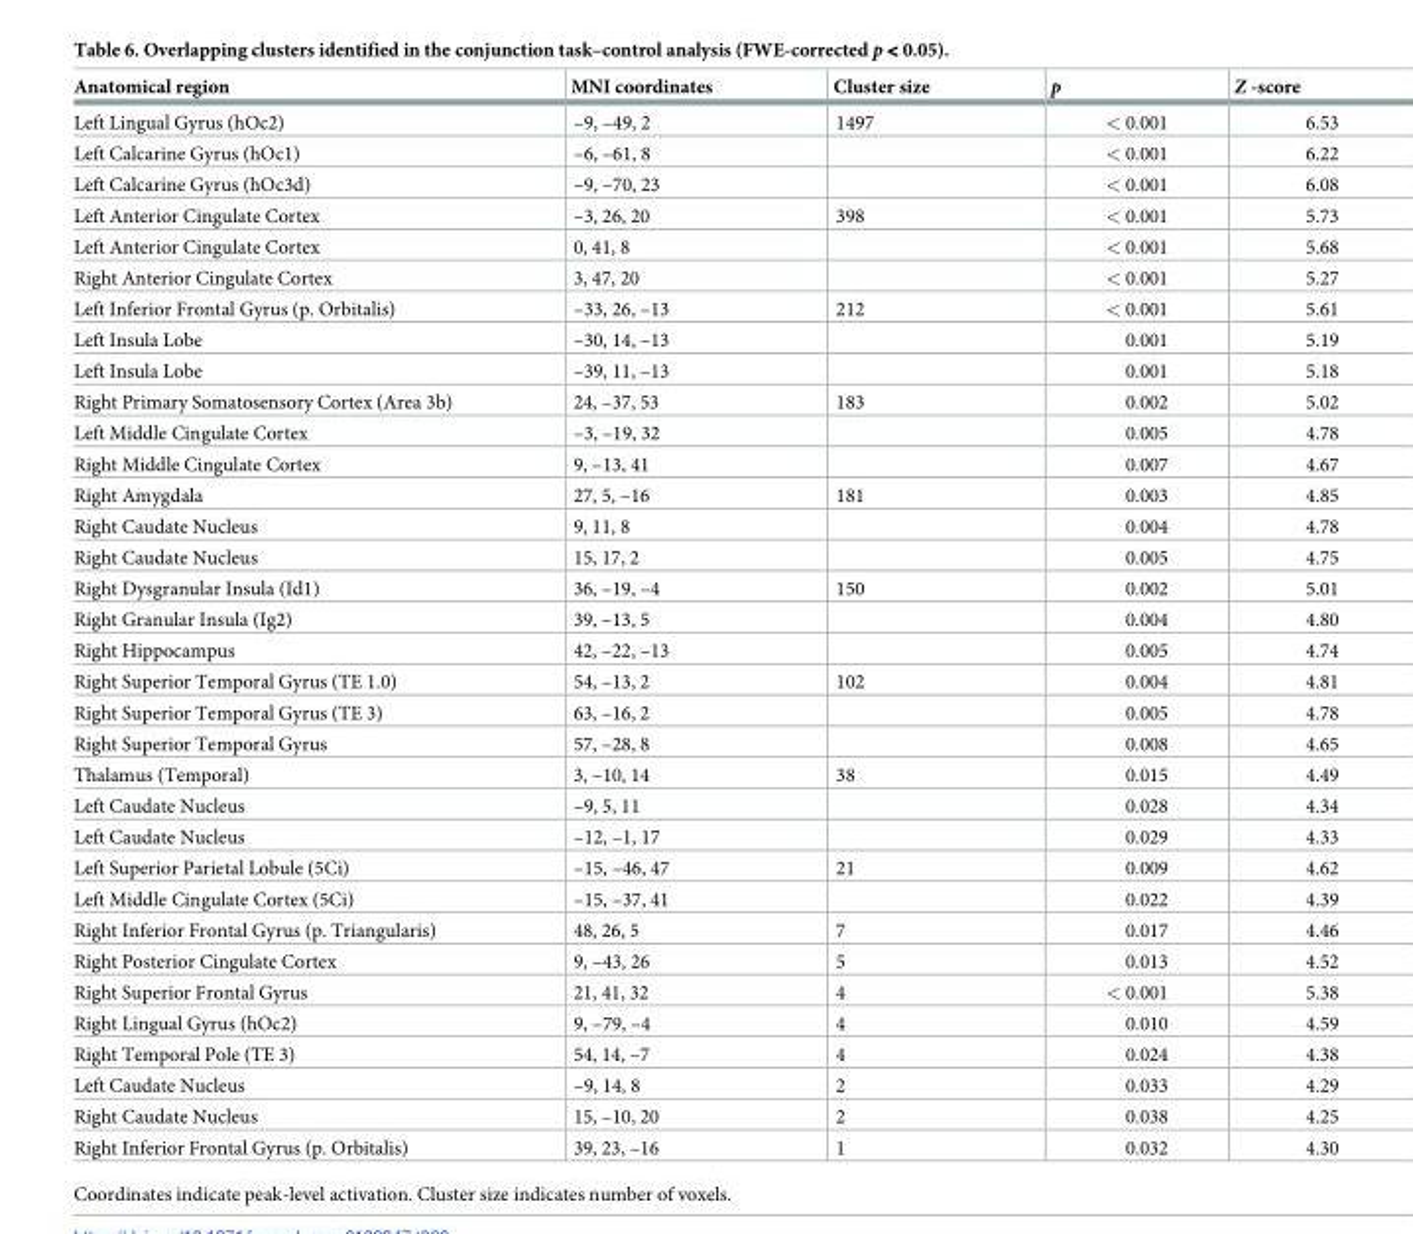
<table><thead><tr><td>Anatomical region</td><td>MNI coordinates</td><td>Cluster size</td><td>p</td><td>Z -score</td></tr></thead><tbody><tr><td>Left Lingual Gyrus (hOc2)</td><td>–9, –49, 2</td><td>1497</td><td>&lt; 0.001</td><td>6.53</td></tr><tr><td>Left Calcarine Gyrus (hOc1)</td><td>–6, –61, 8</td><td></td><td>&lt; 0.001</td><td>6.22</td></tr><tr><td>Left Calcarine Gyrus (hOc3d)</td><td>–9, –70, 23</td><td></td><td>&lt; 0.001</td><td>6.08</td></tr><tr><td>Left Anterior Cingulate Cortex</td><td>–3, 26, 20</td><td>398</td><td>&lt; 0.001</td><td>5.73</td></tr><tr><td>Left Anterior Cingulate Cortex</td><td>0, 41, 8</td><td></td><td>&lt; 0.001</td><td>5.68</td></tr><tr><td>Right Anterior Cingulate Cortex</td><td>3, 47, 20</td><td></td><td>&lt; 0.001</td><td>5.27</td></tr><tr><td>Left Inferior Frontal Gyrus (p. Orbitalis)</td><td>–33, 26, –13</td><td>212</td><td>&lt; 0.001</td><td>5.61</td></tr><tr><td>Left Insula Lobe</td><td>–30, 14, –13</td><td></td><td>0.001</td><td>5.19</td></tr><tr><td>Left Insula Lobe</td><td>–39, 11, –13</td><td></td><td>0.001</td><td>5.18</td></tr><tr><td>Right Primary Somatosensory Cortex (Area 3b)</td><td>24, –37, 53</td><td>183</td><td>0.002</td><td>5.02</td></tr><tr><td>Left Middle Cingulate Cortex</td><td>–3, –19, 32</td><td></td><td>0.005</td><td>4.78</td></tr><tr><td>Right Middle Cingulate Cortex</td><td>9, –13, 41</td><td></td><td>0.007</td><td>4.67</td></tr><tr><td>Right Amygdala</td><td>27, 5, –16</td><td>181</td><td>0.003</td><td>4.85</td></tr><tr><td>Right Caudate Nucleus</td><td>9, 11, 8</td><td></td><td>0.004</td><td>4.78</td></tr><tr><td>Right Caudate Nucleus</td><td>15, 17, 2</td><td></td><td>0.005</td><td>4.75</td></tr><tr><td>Right Dysgranular Insula (Id1)</td><td>36, –19, –4</td><td>150</td><td>0.002</td><td>5.01</td></tr><tr><td>Right Granular Insula (Ig2)</td><td>39, –13, 5</td><td></td><td>0.004</td><td>4.80</td></tr><tr><td>Right Hippocampus</td><td>42, –22, –13</td><td></td><td>0.005</td><td>4.74</td></tr><tr><td>Right Superior Temporal Gyrus (TE 1.0)</td><td>54, –13, 2</td><td>102</td><td>0.004</td><td>4.81</td></tr><tr><td>Right Superior Temporal Gyrus (TE 3)</td><td>63, –16, 2</td><td></td><td>0.005</td><td>4.78</td></tr><tr><td>Right Superior Temporal Gyrus</td><td>57, –28, 8</td><td></td><td>0.008</td><td>4.65</td></tr><tr><td>Thalamus (Temporal)</td><td>3, –10, 14</td><td>38</td><td>0.015</td><td>4.49</td></tr><tr><td>Left Caudate Nucleus</td><td>–9, 5, 11</td><td></td><td>0.028</td><td>4.34</td></tr><tr><td>Left Caudate Nucleus</td><td>–12, –1, 17</td><td></td><td>0.029</td><td>4.33</td></tr><tr><td>Left Superior Parietal Lobule (5Ci)</td><td>–15, –46, 47</td><td>21</td><td>0.009</td><td>4.62</td></tr><tr><td>Left Middle Cingulate Cortex (5Ci)</td><td>–15, –37, 41</td><td></td><td>0.022</td><td>4.39</td></tr><tr><td>Right Inferior Frontal Gyrus (p. Triangularis)</td><td>48, 26, 5</td><td>7</td><td>0.017</td><td>4.46</td></tr><tr><td>Right Posterior Cingulate Cortex</td><td>9, –43, 26</td><td>5</td><td>0.013</td><td>4.52</td></tr><tr><td>Right Superior Frontal Gyrus</td><td>21, 41, 32</td><td>4</td><td>&lt; 0.001</td><td>5.38</td></tr><tr><td>Right Lingual Gyrus (hOc2)</td><td>9, –79, –4</td><td>4</td><td>0.010</td><td>4.59</td></tr><tr><td>Right Temporal Pole (TE 3)</td><td>54, 14, –7</td><td>4</td><td>0.024</td><td>4.38</td></tr><tr><td>Left Caudate Nucleus</td><td>–9, 14, 8</td><td>2</td><td>0.033</td><td>4.29</td></tr><tr><td>Right Caudate Nucleus</td><td>15, –10, 20</td><td>2</td><td>0.038</td><td>4.25</td></tr><tr><td>Right Inferior Frontal Gyrus (p. Orbitalis)</td><td>39, 23, –16</td><td>1</td><td>0.032</td><td>4.30</td></tr></tbody></table>